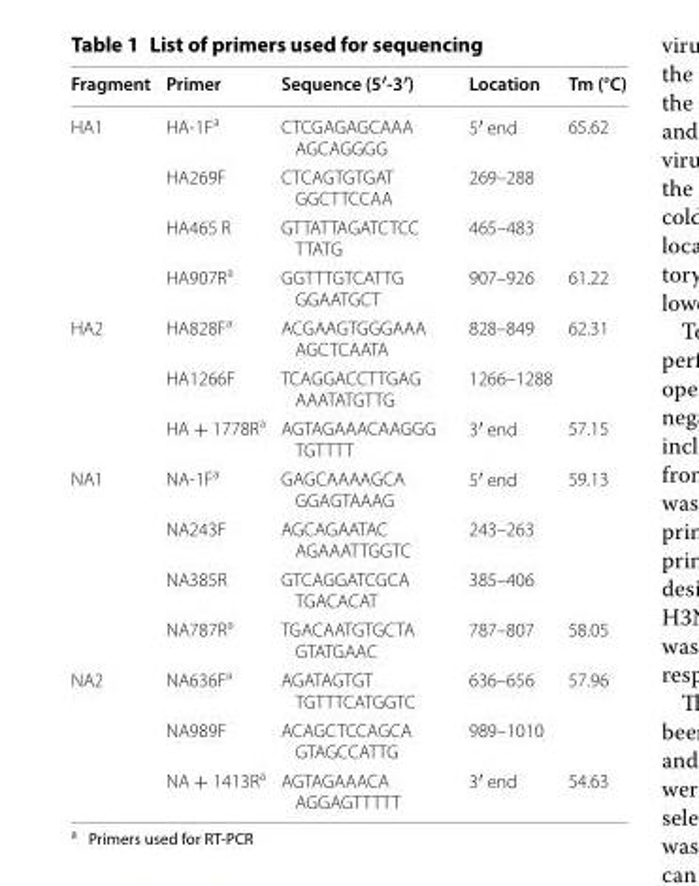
<table><thead><tr><td>Fragment</td><td>Primer</td><td>Sequence (5′‑3′)</td><td>Location</td><td>Tm (°C)</td></tr></thead><tbody><tr><td rowspan="4">HA1</td><td>HA-1F<sup>a</sup></td><td>CTCGAGAGCAAA AGCAGGGG</td><td>5′ end</td><td>65.62</td></tr><tr><td>HA269F</td><td>CTCAGTGTGAT GGCTTCCAA</td><td>269–288</td><td></td></tr><tr><td>HA465 R</td><td>GTTATTAGATCTCC TTATG</td><td>465–483</td><td></td></tr><tr><td>HA907R<sup>a</sup></td><td>GGTTTGTCATTG GGAATGCT</td><td>907–926</td><td>61.22</td></tr><tr><td rowspan="3">HA2</td><td>HA828F<sup>a</sup></td><td>ACGAAGTGGGAAA AGCTCAATA</td><td>828–849</td><td>62.31</td></tr><tr><td>HA1266F</td><td>TCAGGACCTTGAG AAATATGTTG</td><td>1266–1288</td><td></td></tr><tr><td>HA + 1778R<sup>a</sup></td><td>AGTAGAAACAAGGG TGTTTT</td><td>3′ end</td><td>57.15</td></tr><tr><td rowspan="4">NA1</td><td>NA-1F<sup>a</sup></td><td>GAGCAAAAGCA GGAGTAAAG</td><td>5′ end</td><td>59.13</td></tr><tr><td>NA243F</td><td>AGCAGAATAC AGAAATTGGTC</td><td>243–263</td><td></td></tr><tr><td>NA385R</td><td>GTCAGGATCGCA TGACACAT</td><td>385–406</td><td></td></tr><tr><td>NA787R<sup>a</sup></td><td>TGACAATGTGCTA GTATGAAC</td><td>787–807</td><td>58.05</td></tr><tr><td rowspan="3">NA2</td><td>NA636F<sup>a</sup></td><td>AGATAGTGT TGTTTCATGGTC</td><td>636–656</td><td>57.96</td></tr><tr><td>NA989F</td><td>ACAGCTCCAGCA GTAGCCATTG</td><td>989–1010</td><td></td></tr><tr><td>NA + 1413R<sup>a</sup></td><td>AGTAGAAACA AGGAGTTTTT</td><td>3′ end</td><td>54.63</td></tr></tbody></table>